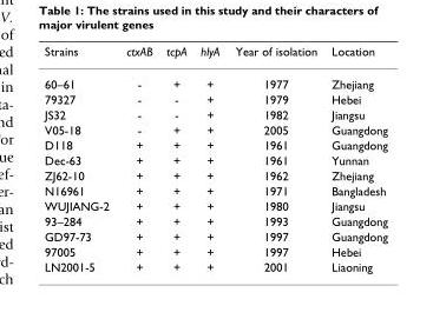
<table><thead><tr><td>Strains</td><td>ctxAB</td><td>tcpA</td><td>hlyA</td><td>Year of isolation</td><td>Location</td></tr></thead><tbody><tr><td>60–61</td><td>-</td><td>+</td><td>+</td><td>1977</td><td>Zhejiang</td></tr><tr><td>79327</td><td>-</td><td>-</td><td>+</td><td>1979</td><td>Hebei</td></tr><tr><td>JS32</td><td>-</td><td>-</td><td>+</td><td>1982</td><td>Jiangsu</td></tr><tr><td>V05-18</td><td>-</td><td>+</td><td>+</td><td>2005</td><td>Guangdong</td></tr><tr><td>D118</td><td>+</td><td>+</td><td>+</td><td>1961</td><td>Guangdong</td></tr><tr><td>Dec-63</td><td>+</td><td>+</td><td>+</td><td>1961</td><td>Yunnan</td></tr><tr><td>ZJ62-10</td><td>+</td><td>+</td><td>+</td><td>1962</td><td>Zhejiang</td></tr><tr><td>N16961</td><td>+</td><td>+</td><td>+</td><td>1971</td><td>Bangladesh</td></tr><tr><td>WUJIANG-2</td><td>+</td><td>+</td><td>+</td><td>1980</td><td>Jiangsu</td></tr><tr><td>93–284</td><td>+</td><td>+</td><td>+</td><td>1993</td><td>Guangdong</td></tr><tr><td>GD97-73</td><td>+</td><td>+</td><td>+</td><td>1997</td><td>Guangdong</td></tr><tr><td>97005</td><td>+</td><td>+</td><td>+</td><td>1997</td><td>Hebei</td></tr><tr><td>LN2001-5</td><td>+</td><td>+</td><td>+</td><td>2001</td><td>Liaoning</td></tr></tbody></table>